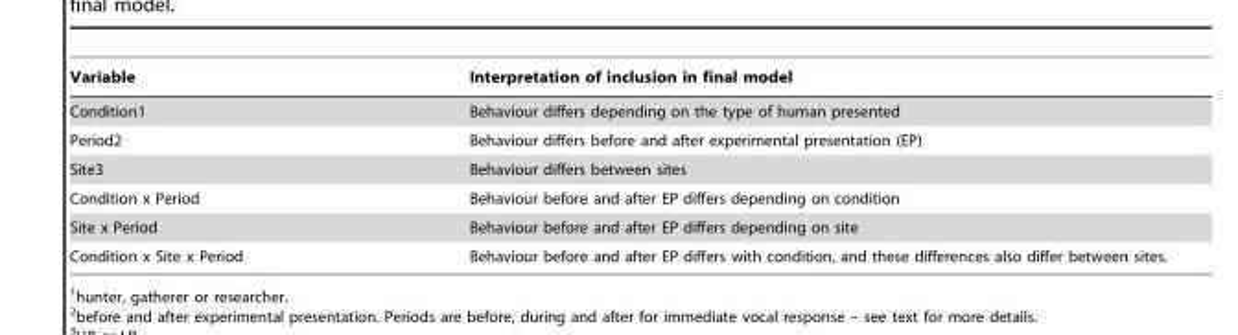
<table><thead><tr><td>Variable</td><td>Interpretation of inclusion in final model</td></tr></thead><tbody><tr><td>Condition1</td><td>Behaviour differs depending on the type of human presented</td></tr><tr><td>Period2</td><td>Behaviour differs before and after experimental presentation (EP)</td></tr><tr><td>Site3</td><td>Behaviour differs between sites</td></tr><tr><td>Condition x Period</td><td>Behaviour before and after EP differs depending on condition</td></tr><tr><td>Site x Period</td><td>Behaviour before and after EP differs depending on site</td></tr><tr><td>Condition x Site x Period</td><td>Behaviour before and after EP differs with condition, and these differences also differ between sites.</td></tr></tbody></table>